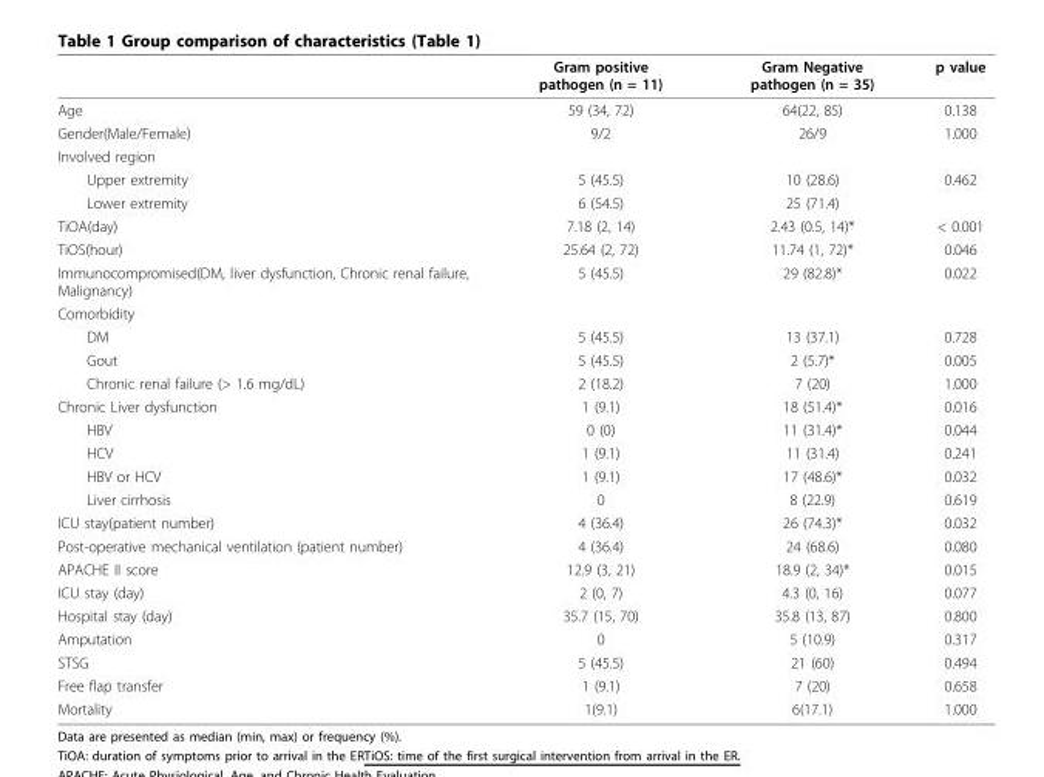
<table><thead><tr><td></td><td>Gram positive pathogen (n = 11)</td><td>Gram Negative pathogen (n = 35)</td><td>p value</td></tr></thead><tbody><tr><td>Age</td><td>59 (34, 72)</td><td>64(22, 85)</td><td>0.138</td></tr><tr><td>Gender(Male/Female)</td><td>9/2</td><td>26/9</td><td>1.000</td></tr><tr><td colspan="4">Involved region</td></tr><tr><td>Upper extremity</td><td>5 (45.5)</td><td>10 (28.6)</td><td>0.462</td></tr><tr><td>Lower extremity</td><td>6 (54.5)</td><td>25 (71.4)</td><td></td></tr><tr><td>TiOA(day)</td><td>7.18 (2, 14)</td><td>2.43 (0.5, 14)*</td><td>&lt; 0.001</td></tr><tr><td>TiOS(hour)</td><td>25.64 (2, 72)</td><td>11.74 (1, 72)*</td><td>0.046</td></tr><tr><td>Immunocompromised(DM, liver dysfunction, Chronic renal failure, Malignancy)</td><td>5 (45.5)</td><td>29 (82.8)*</td><td>0.022</td></tr><tr><td colspan="4">Comorbidity</td></tr><tr><td>DM</td><td>5 (45.5)</td><td>13 (37.1)</td><td>0.728</td></tr><tr><td>Gout</td><td>5 (45.5)</td><td>2 (5.7)*</td><td>0.005</td></tr><tr><td>Chronic renal failure (&gt; 1.6 mg/dL)</td><td>2 (18.2)</td><td>7 (20)</td><td>1.000</td></tr><tr><td>Chronic Liver dysfunction</td><td>1 (9.1)</td><td>18 (51.4)*</td><td>0.016</td></tr><tr><td>HBV</td><td>0 (0)</td><td>11 (31.4)*</td><td>0.044</td></tr><tr><td>HCV</td><td>1 (9.1)</td><td>11 (31.4)</td><td>0.241</td></tr><tr><td>HBV or HCV</td><td>1 (9.1)</td><td>17 (48.6)*</td><td>0.032</td></tr><tr><td>Liver cirrhosis</td><td>0</td><td>8 (22.9)</td><td>0.619</td></tr><tr><td>ICU stay(patient number)</td><td>4 (36.4)</td><td>26 (74.3)*</td><td>0.032</td></tr><tr><td>Post-operative mechanical ventilation (patient number)</td><td>4 (36.4)</td><td>24 (68.6)</td><td>0.080</td></tr><tr><td>APACHE II score</td><td>12.9 (3, 21)</td><td>18.9 (2, 34)*</td><td>0.015</td></tr><tr><td>ICU stay (day)</td><td>2 (0, 7)</td><td>4.3 (0, 16)</td><td>0.077</td></tr><tr><td>Hospital stay (day)</td><td>35.7 (15, 70)</td><td>35.8 (13, 87)</td><td>0.800</td></tr><tr><td>Amputation</td><td>0</td><td>5 (10.9)</td><td>0.317</td></tr><tr><td>STSG</td><td>5 (45.5)</td><td>21 (60)</td><td>0.494</td></tr><tr><td>Free flap transfer</td><td>1 (9.1)</td><td>7 (20)</td><td>0.658</td></tr><tr><td>Mortality</td><td>1(9.1)</td><td>6(17.1)</td><td>1.000</td></tr></tbody></table>